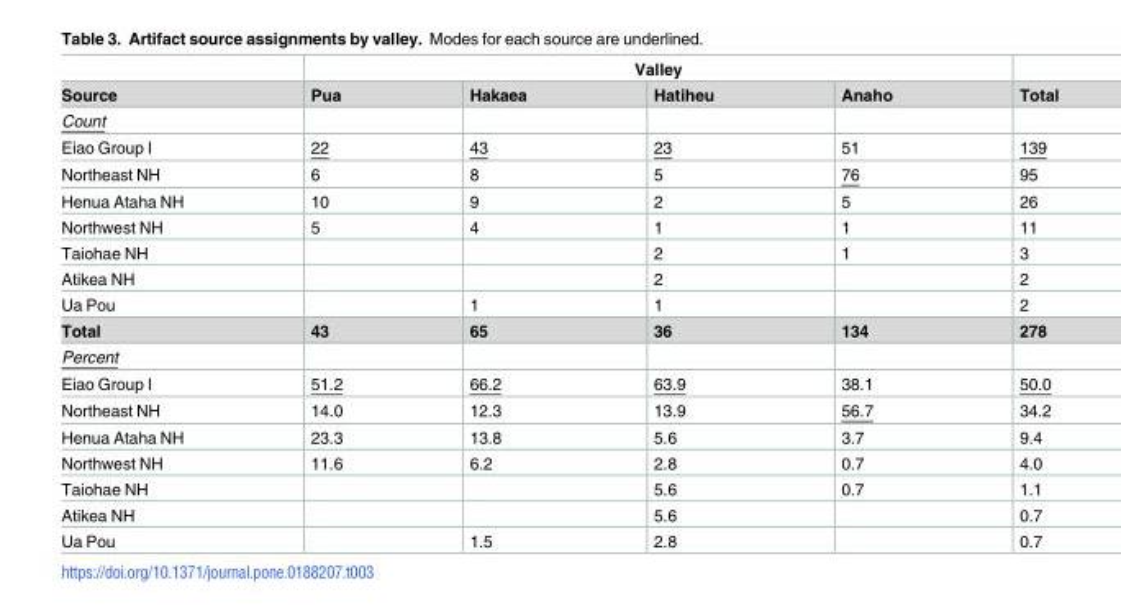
<table><thead><tr><td rowspan="2">Source</td><td colspan="4">Valley</td><td rowspan="2">Total</td></tr><tr><td>Pua</td><td>Hakaea</td><td>Hatiheu</td><td>Anaho</td></tr></thead><tbody><tr><td colspan="6">Count</td></tr><tr><td>Eiao Group I</td><td>22</td><td>43</td><td>23</td><td>51</td><td>139</td></tr><tr><td>Northeast NH</td><td>6</td><td>8</td><td>5</td><td>76</td><td>95</td></tr><tr><td>Henua Ataha NH</td><td>10</td><td>9</td><td>2</td><td>5</td><td>26</td></tr><tr><td>Northwest NH</td><td>5</td><td>4</td><td>1</td><td>1</td><td>11</td></tr><tr><td>Taiohae NH</td><td></td><td></td><td>2</td><td>1</td><td>3</td></tr><tr><td>Atikea NH</td><td></td><td></td><td>2</td><td></td><td>2</td></tr><tr><td>Ua Pou</td><td></td><td>1</td><td>1</td><td></td><td>2</td></tr><tr><td>Total</td><td>43</td><td>65</td><td>36</td><td>134</td><td>278</td></tr><tr><td colspan="6">Percent</td></tr><tr><td>Eiao Group I</td><td>51.2</td><td>66.2</td><td>63.9</td><td>38.1</td><td>50.0</td></tr><tr><td>Northeast NH</td><td>14.0</td><td>12.3</td><td>13.9</td><td>56.7</td><td>34.2</td></tr><tr><td>Henua Ataha NH</td><td>23.3</td><td>13.8</td><td>5.6</td><td>3.7</td><td>9.4</td></tr><tr><td>Northwest NH</td><td>11.6</td><td>6.2</td><td>2.8</td><td>0.7</td><td>4.0</td></tr><tr><td>Taiohae NH</td><td></td><td></td><td>5.6</td><td>0.7</td><td>1.1</td></tr><tr><td>Atikea NH</td><td></td><td></td><td>5.6</td><td></td><td>0.7</td></tr><tr><td>Ua Pou</td><td></td><td>1.5</td><td>2.8</td><td></td><td>0.7</td></tr></tbody></table>